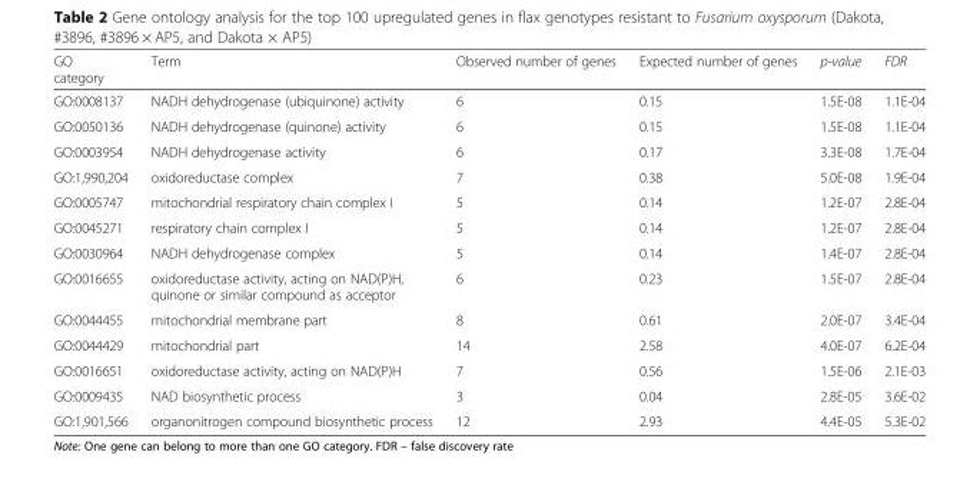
<table><thead><tr><td>GO category</td><td>Term</td><td>Observed number of genes</td><td>Expected number of genes</td><td>p-value</td><td>FDR</td></tr></thead><tbody><tr><td>GO:0008137</td><td>NADH dehydrogenase (ubiquinone) activity</td><td>6</td><td>0.15</td><td>1.5E-08</td><td>1.1E-04</td></tr><tr><td>GO:0050136</td><td>NADH dehydrogenase (quinone) activity</td><td>6</td><td>0.15</td><td>1.5E-08</td><td>1.1E-04</td></tr><tr><td>GO:0003954</td><td>NADH dehydrogenase activity</td><td>6</td><td>0.17</td><td>3.3E-08</td><td>1.7E-04</td></tr><tr><td>GO:1,990,204</td><td>oxidoreductase complex</td><td>7</td><td>0.38</td><td>5.0E-08</td><td>1.9E-04</td></tr><tr><td>GO:0005747</td><td>mitochondrial respiratory chain complex I</td><td>5</td><td>0.14</td><td>1.2E-07</td><td>2.8E-04</td></tr><tr><td>GO:0045271</td><td>respiratory chain complex I</td><td>5</td><td>0.14</td><td>1.2E-07</td><td>2.8E-04</td></tr><tr><td>GO:0030964</td><td>NADH dehydrogenase complex</td><td>5</td><td>0.14</td><td>1.4E-07</td><td>2.8E-04</td></tr><tr><td>GO:0016655</td><td>oxidoreductase activity, acting on NAD(P)H, quinone or similar compound as acceptor</td><td>6</td><td>0.23</td><td>1.5E-07</td><td>2.8E-04</td></tr><tr><td>GO:0044455</td><td>mitochondrial membrane part</td><td>8</td><td>0.61</td><td>2.0E-07</td><td>3.4E-04</td></tr><tr><td>GO:0044429</td><td>mitochondrial part</td><td>14</td><td>2.58</td><td>4.0E-07</td><td>6.2E-04</td></tr><tr><td>GO:0016651</td><td>oxidoreductase activity, acting on NAD(P)H</td><td>7</td><td>0.56</td><td>1.5E-06</td><td>2.1E-03</td></tr><tr><td>GO:0009435</td><td>NAD biosynthetic process</td><td>3</td><td>0.04</td><td>2.8E-05</td><td>3.6E-02</td></tr><tr><td>GO:1,901,566</td><td>organonitrogen compound biosynthetic process</td><td>12</td><td>2.93</td><td>4.4E-05</td><td>5.3E-02</td></tr></tbody></table>